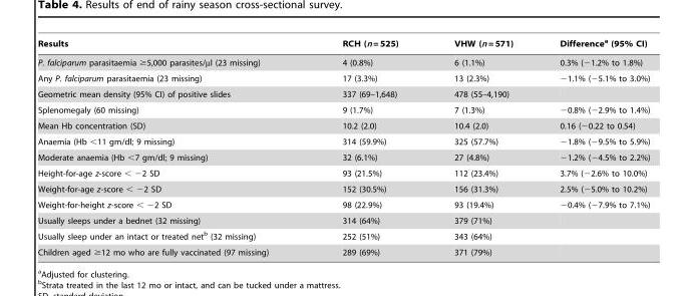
<table><thead><tr><td>Results</td><td>RCH (n = 525)</td><td>VHW (n = 571)</td><td>Difference<sup>a</sup> (95% CI)</td></tr></thead><tbody><tr><td>P. falciparum parasitaemia ≥5,000 parasites/µl (23 missing)</td><td>4 (0.8%)</td><td>6 (1.1%)</td><td>0.3% (−1.2% to 1.8%)</td></tr><tr><td>Any P. falciparum parasitaemia (23 missing)</td><td>17 (3.3%)</td><td>13 (2.3%)</td><td>−1.1% (−5.1% to 3.0%)</td></tr><tr><td>Geometric mean density (95% CI) of positive slides</td><td>337 (69–1,648)</td><td>478 (55–4,190)</td><td></td></tr><tr><td>Splenomegaly (60 missing)</td><td>9 (1.7%)</td><td>7 (1.3%)</td><td>−0.8% (−2.9% to 1.4%)</td></tr><tr><td>Mean Hb concentration (SD)</td><td>10.2 (2.0)</td><td>10.4 (2.0)</td><td>0.16 (−0.22 to 0.54)</td></tr><tr><td>Anaemia (Hb &lt;11 gm/dl; 9 missing)</td><td>314 (59.9%)</td><td>325 (57.7%)</td><td>−1.8% (−9.5% to 5.9%)</td></tr><tr><td>Moderate anaemia (Hb &lt;7 gm/dl; 9 missing)</td><td>32 (6.1%)</td><td>27 (4.8%)</td><td>−1.2% (−4.5% to 2.2%)</td></tr><tr><td>Height-for-age z-score &lt; −2 SD</td><td>93 (21.5%)</td><td>112 (23.4%)</td><td>3.7% (−2.6% to 10.0%)</td></tr><tr><td>Weight-for-age z-score &lt; −2 SD</td><td>152 (30.5%)</td><td>156 (31.3%)</td><td>2.5% (−5.0% to 10.2%)</td></tr><tr><td>Weight-for-height z-score &lt; −2 SD</td><td>98 (22.9%)</td><td>93 (19.4%)</td><td>−0.4% (−7.9% to 7.1%)</td></tr><tr><td>Usually sleeps under a bednet (32 missing)</td><td>314 (64%)</td><td>379 (71%)</td><td></td></tr><tr><td>Usually sleep under an intact or treated net<sup>b</sup> (32 missing)</td><td>252 (51%)</td><td>343 (64%)</td><td></td></tr><tr><td>Children aged ≥12 mo who are fully vaccinated (97 missing)</td><td>289 (69%)</td><td>371 (79%)</td><td></td></tr></tbody></table>